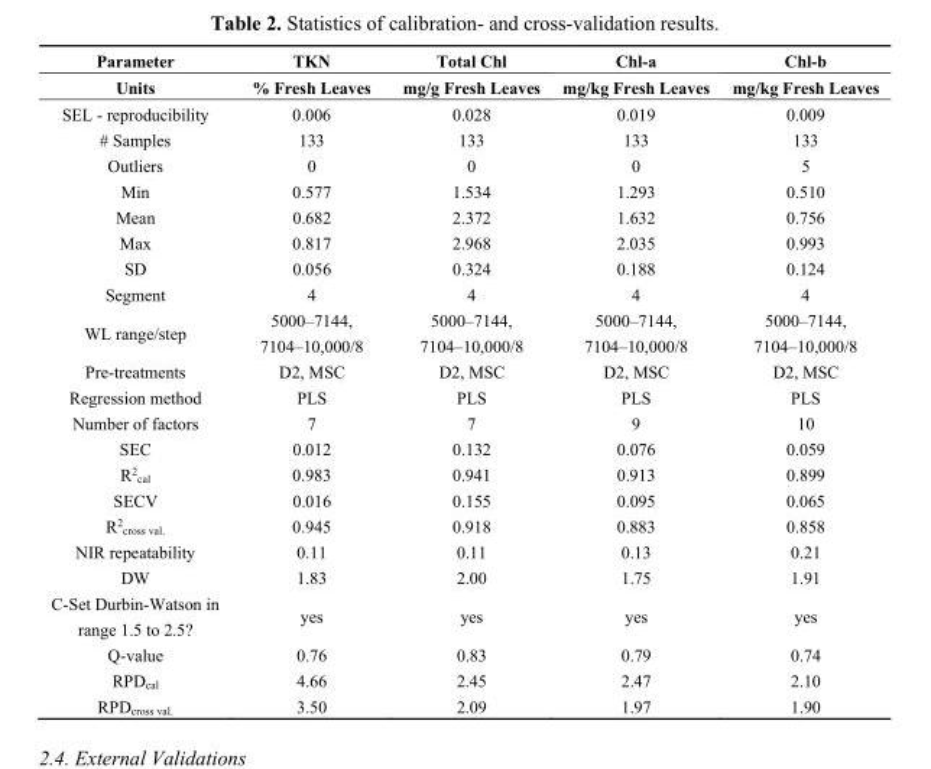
<table><thead><tr><td rowspan="2">Parameter Units</td><td rowspan="2">TKN % Fresh Leaves</td><td rowspan="2">Total Chl mg/g Fresh Leaves</td><td rowspan="2">Chl-a mg/kg Fresh Leaves</td><td rowspan="2">Chl-b mg/kg Fresh Leaves</td></tr><tr></tr></thead><tbody><tr><td>SEL - reproducibility</td><td>0.006</td><td>0.028</td><td>0.019</td><td>0.009</td></tr><tr><td># Samples</td><td>133</td><td>133</td><td>133</td><td>133</td></tr><tr><td>Outliers</td><td>0</td><td>0</td><td>0</td><td>5</td></tr><tr><td>Min</td><td>0.577</td><td>1.534</td><td>1.293</td><td>0.510</td></tr><tr><td>Mean</td><td>0.682</td><td>2.372</td><td>1.632</td><td>0.756</td></tr><tr><td>Max</td><td>0.817</td><td>2.968</td><td>2.035</td><td>0.993</td></tr><tr><td>SD</td><td>0.056</td><td>0.324</td><td>0.188</td><td>0.124</td></tr><tr><td>Segment</td><td>4</td><td>4</td><td>4</td><td>4</td></tr><tr><td>WL range/step</td><td>5000–7144, 7104–10,000/8</td><td>5000–7144, 7104–10,000/8</td><td>5000–7144, 7104–10,000/8</td><td>5000–7144, 7104–10,000/8</td></tr><tr><td>Pre-treatments</td><td>D2, MSC</td><td>D2, MSC</td><td>D2, MSC</td><td>D2, MSC</td></tr><tr><td>Regression method</td><td>PLS</td><td>PLS</td><td>PLS</td><td>PLS</td></tr><tr><td>Number of factors</td><td>7</td><td>7</td><td>9</td><td>10</td></tr><tr><td>SEC</td><td>0.012</td><td>0.132</td><td>0.076</td><td>0.059</td></tr><tr><td>R<sup>2</sup><sub>cal</sub></td><td>0.983</td><td>0.941</td><td>0.913</td><td>0.899</td></tr><tr><td>SECV</td><td>0.016</td><td>0.155</td><td>0.095</td><td>0.065</td></tr><tr><td>R<sup>2</sup><sub>cross val.</sub></td><td>0.945</td><td>0.918</td><td>0.883</td><td>0.858</td></tr><tr><td>NIR repeatability</td><td>0.11</td><td>0.11</td><td>0.13</td><td>0.21</td></tr><tr><td>DW</td><td>1.83</td><td>2.00</td><td>1.75</td><td>1.91</td></tr><tr><td>C-Set Durbin-Watson in range 1.5 to 2.5?</td><td>yes</td><td>yes</td><td>yes</td><td>yes</td></tr><tr><td>Q-value</td><td>0.76</td><td>0.83</td><td>0.79</td><td>0.74</td></tr><tr><td>RPD<sub>cal</sub></td><td>4.66</td><td>2.45</td><td>2.47</td><td>2.10</td></tr><tr><td>RPD<sub>cross val.</sub></td><td>3.50</td><td>2.09</td><td>1.97</td><td>1.90</td></tr></tbody></table>